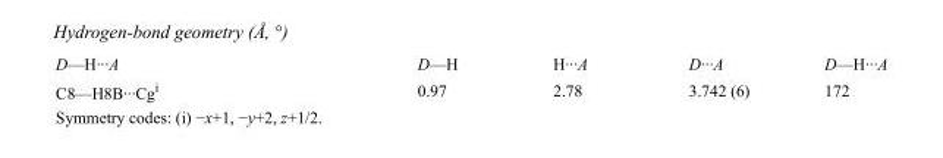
<table><tbody><tr><td>D—H···A</td><td>D—H</td><td>H···A</td><td>D···A</td><td>D—H···A</td></tr><tr><td>C8—H8B···Cg<sup>i</sup></td><td>0.97</td><td>2.78</td><td>3.742 (6)</td><td>172</td></tr></tbody></table>